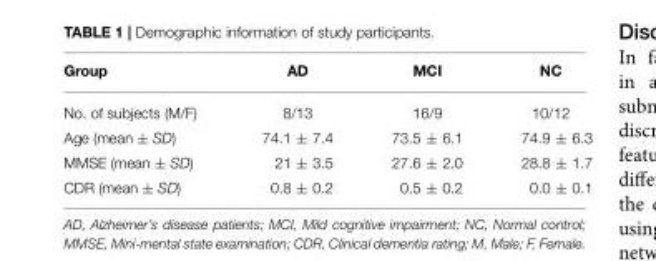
<table><thead><tr><td>Group</td><td>AD</td><td>MCI</td><td>NC</td></tr></thead><tbody><tr><td>No. of subjects (M/F)</td><td>8/13</td><td>16/9</td><td>10/12</td></tr><tr><td>Age (mean ± SD)</td><td>74.1 ± 7.4</td><td>73.5 ± 6.1</td><td>74.9 ± 6.3</td></tr><tr><td>MMSE (mean ± SD)</td><td>21 ± 3.5</td><td>27.6 ± 2.0</td><td>28.8 ± 1.7</td></tr><tr><td>CDR (mean ± SD)</td><td>0.8 ± 0.2</td><td>0.5 ± 0.2</td><td>0.0 ± 0.1</td></tr></tbody></table>